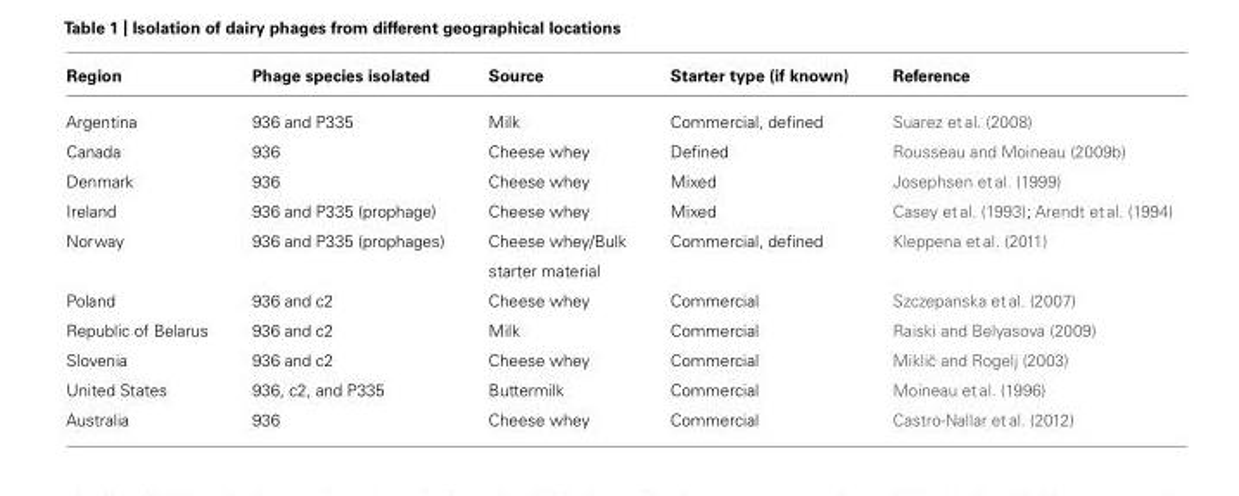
<table><thead><tr><td>Region</td><td>Phage species isolated</td><td>Source</td><td>Starter type (if known)</td><td>Reference</td></tr></thead><tbody><tr><td>Argentina</td><td>936 and P335</td><td>Milk</td><td>Commercial, defined</td><td>Suarez et al. (2008)</td></tr><tr><td>Canada</td><td>936</td><td>Cheese whey</td><td>Defined</td><td>Rousseau and Moineau (2009b)</td></tr><tr><td>Denmark</td><td>936</td><td>Cheese whey</td><td>Mixed</td><td>Josephsen et al. (1999)</td></tr><tr><td>Ireland</td><td>936 and P335 (prophage)</td><td>Cheese whey</td><td>Mixed</td><td>Casey et al. (1993); Arendt et al. (1994)</td></tr><tr><td rowspan="2">Norway</td><td>936 and P335 (prophages)</td><td>Cheese whey/Bulk</td><td>Commercial, defined</td><td>Kleppena et al. (2011)</td></tr><tr><td></td><td>starter material</td><td></td><td></td></tr><tr><td>Poland</td><td>936 and c2</td><td>Cheese whey</td><td>Commercial</td><td>Szczepanska et al. (2007)</td></tr><tr><td>Republic of Belarus</td><td>936 and c2</td><td>Milk</td><td>Commercial</td><td>Raiski and Belyasova (2009)</td></tr><tr><td>Slovenia</td><td>936 and c2</td><td>Cheese whey</td><td>Commercial</td><td>Mikliˇc and Rogelj (2003)</td></tr><tr><td>United States</td><td>936, c2, and P335</td><td>Buttermilk</td><td>Commercial</td><td>Moineau et al. (1996)</td></tr><tr><td>Australia</td><td>936</td><td>Cheese whey</td><td>Commercial</td><td>Castro-Nallar et al. (2012)</td></tr></tbody></table>